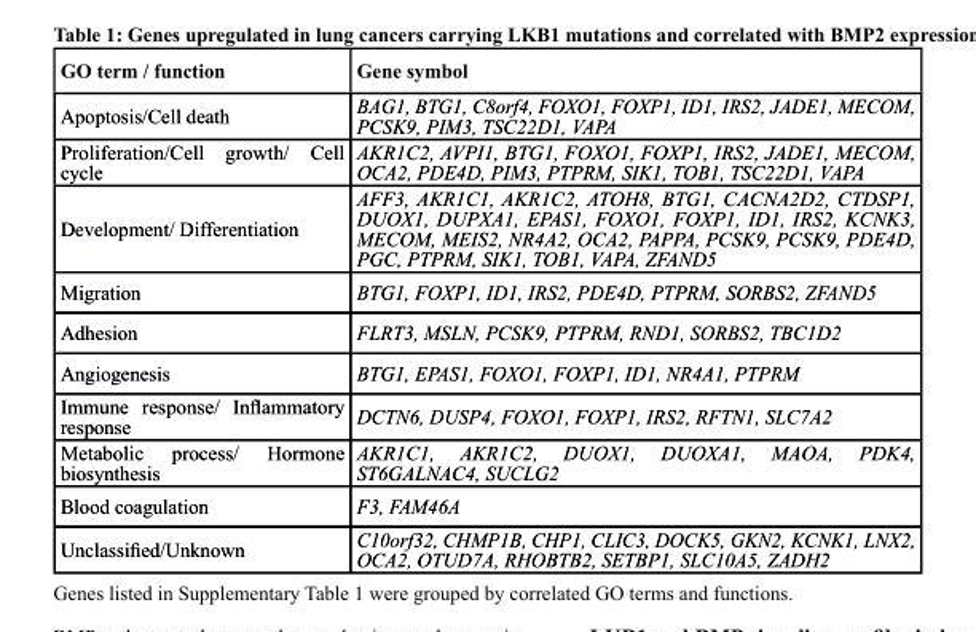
<table><thead><tr><td>GO term / function</td><td>Gene symbol</td></tr></thead><tbody><tr><td>Apoptosis/Cell death</td><td>BAG1, BTG1, C8orf4, FOXO1, FOXP1, ID1, IRS2, JADE1, MECOM, PCSK9, PIM3, TSC22D1, VAPA</td></tr><tr><td>Proliferation/Cell growth/ Cell cycle</td><td>AKR1C2, AVPI1, BTG1, FOXO1, FOXP1, IRS2, JADE1, MECOM, OCA2, PDE4D, PIM3, PTPRM, SIK1, TOB1, TSC22D1, VAPA</td></tr><tr><td>Development/ Differentiation</td><td>AFF3, AKR1C1, AKR1C2, ATOH8, BTG1, CACNA2D2, CTDSP1, DUOX1, DUPXA1, EPAS1, FOXO1, FOXP1, ID1, IRS2, KCNK3, MECOM, MEIS2, NR4A2, OCA2, PAPPA, PCSK9, PCSK9, PDE4D, PGC, PTPRM, SIK1, TOB1, VAPA, ZFAND5</td></tr><tr><td>Migration</td><td>BTG1, FOXP1, ID1, IRS2, PDE4D, PTPRM, SORBS2, ZFAND5</td></tr><tr><td>Adhesion</td><td>FLRT3, MSLN, PCSK9, PTPRM, RND1, SORBS2, TBC1D2</td></tr><tr><td>Angiogenesis</td><td>BTG1, EPAS1, FOXO1, FOXP1, ID1, NR4A1, PTPRM</td></tr><tr><td>Immune response/ Inflammatory response</td><td>DCTN6, DUSP4, FOXO1, FOXP1, IRS2, RFTN1, SLC7A2</td></tr><tr><td>Metabolic process/ Hormone biosynthesis</td><td>AKR1C1, AKR1C2, DUOX1, DUOXA1, MAOA, PDK4, ST6GALNAC4, SUCLG2</td></tr><tr><td>Blood coagulation</td><td>F3, FAM46A</td></tr><tr><td>Unclassified/Unknown</td><td>C10orf32, CHMP1B, CHP1, CLIC3, DOCK5, GKN2, KCNK1, LNX2, OCA2, OTUD7A, RHOBTB2, SETBP1, SLC10A5, ZADH2</td></tr></tbody></table>